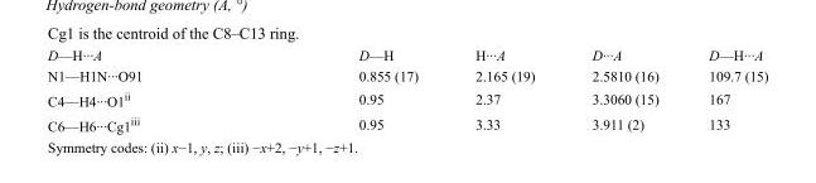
<table><tbody><tr><td>D—H···A</td><td>D—H</td><td>H···A</td><td>D···A</td><td>D—H···A</td></tr><tr><td>N1—H1N···O91</td><td>0.855 (17)</td><td>2.165 (19)</td><td>2.5810 (16)</td><td>109.7 (15)</td></tr><tr><td>C4—H4···O1<sup>ii</sup></td><td>0.95</td><td>2.37</td><td>3.3060 (15)</td><td>167</td></tr><tr><td>C6—H6···Cg1<sup>iii</sup></td><td>0.95</td><td>3.33</td><td>3.911 (2)</td><td>133</td></tr></tbody></table>